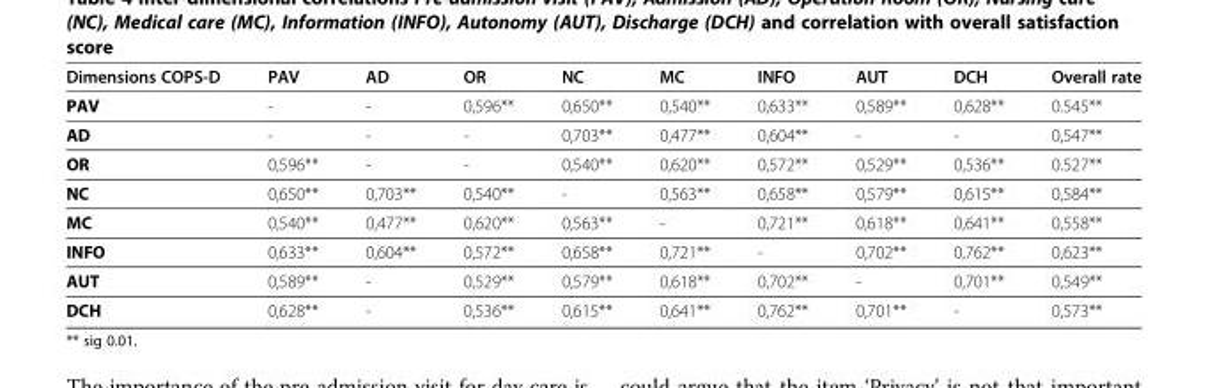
<table><thead><tr><td>Dimensions COPS-D</td><td>PAV</td><td>AD</td><td>OR</td><td>NC</td><td>MC</td><td>INFO</td><td>AUT</td><td>DCH</td><td>Overall rate</td></tr></thead><tbody><tr><td>PAV</td><td>-</td><td>-</td><td>0,596**</td><td>0,650**</td><td>0,540**</td><td>0,633**</td><td>0,589**</td><td>0,628**</td><td>0.545**</td></tr><tr><td>AD</td><td>-</td><td>-</td><td>-</td><td>0,703**</td><td>0,477**</td><td>0,604**</td><td>-</td><td>-</td><td>0,547**</td></tr><tr><td>OR</td><td>0,596**</td><td>-</td><td>-</td><td>0,540**</td><td>0,620**</td><td>0,572**</td><td>0,529**</td><td>0,536**</td><td>0.527**</td></tr><tr><td>NC</td><td>0,650**</td><td>0,703**</td><td>0,540**</td><td>-</td><td>0,563**</td><td>0,658**</td><td>0,579**</td><td>0,615**</td><td>0,584**</td></tr><tr><td>MC</td><td>0,540**</td><td>0,477**</td><td>0,620**</td><td>0,563**</td><td>-</td><td>0,721**</td><td>0,618**</td><td>0,641**</td><td>0,558**</td></tr><tr><td>INFO</td><td>0,633**</td><td>0,604**</td><td>0,572**</td><td>0,658**</td><td>0,721**</td><td>-</td><td>0,702**</td><td>0,762**</td><td>0,623**</td></tr><tr><td>AUT</td><td>0,589**</td><td>-</td><td>0,529**</td><td>0,579**</td><td>0,618**</td><td>0,702**</td><td>-</td><td>0,701**</td><td>0,549**</td></tr><tr><td>DCH</td><td>0,628**</td><td>-</td><td>0,536**</td><td>0,615**</td><td>0,641**</td><td>0,762**</td><td>0,701**</td><td>-</td><td>0,573**</td></tr></tbody></table>